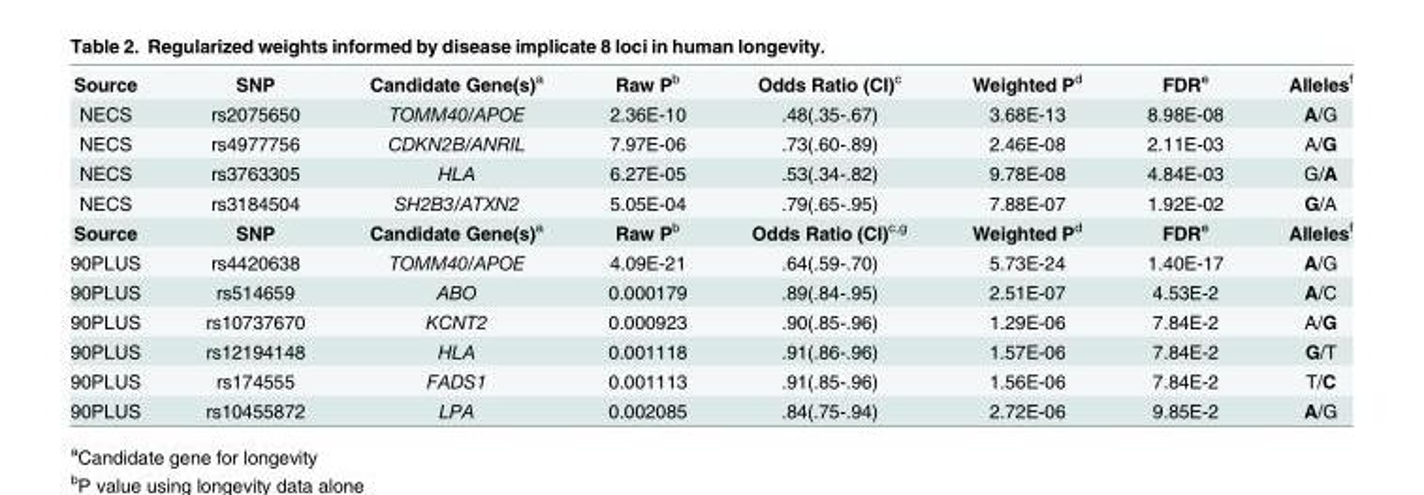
<table><tbody><tr><td>Source</td><td>SNP</td><td>Candidate Gene(s)<sup>a</sup></td><td>Raw P<sup>b</sup></td><td>Odds Ratio (CI)<sup>c</sup></td><td>Weighted P<sup>d</sup></td><td>FDR<sup>e</sup></td><td>Alleles<sup>f</sup></td></tr><tr><td>NECS</td><td>rs2075650</td><td>TOMM40/APOE</td><td>2.36E-10</td><td>.48(.35-.67)</td><td>3.68E-13</td><td>8.98E-08</td><td>A/G</td></tr><tr><td>NECS</td><td>rs4977756</td><td>CDKN2B/ANRIL</td><td>7.97E-06</td><td>.73(.60-.89)</td><td>2.46E-08</td><td>2.11E-03</td><td>A/G</td></tr><tr><td>NECS</td><td>rs3763305</td><td>HLA</td><td>6.27E-05</td><td>.53(.34-.82)</td><td>9.78E-08</td><td>4.84E-03</td><td>G/A</td></tr><tr><td>NECS</td><td>rs3184504</td><td>SH2B3/ATXN2</td><td>5.05E-04</td><td>.79(.65-.95)</td><td>7.88E-07</td><td>1.92E-02</td><td>G/A</td></tr><tr><td>Source</td><td>SNP</td><td>Candidate Gene(s)<sup>a</sup></td><td>Raw P<sup>b</sup></td><td>Odds Ratio (CI)<sup>c,g</sup></td><td>Weighted P<sup>d</sup></td><td>FDR<sup>e</sup></td><td>Alleles<sup>f</sup></td></tr><tr><td>90PLUS</td><td>rs4420638</td><td>TOMM40/APOE</td><td>4.09E-21</td><td>.64(.59-.70)</td><td>5.73E-24</td><td>1.40E-17</td><td>A/G</td></tr><tr><td>90PLUS</td><td>rs514659</td><td>ABO</td><td>0.000179</td><td>.89(.84-.95)</td><td>2.51E-07</td><td>4.53E-2</td><td>A/C</td></tr><tr><td>90PLUS</td><td>rs10737670</td><td>KCNT2</td><td>0.000923</td><td>.90(.85-.96)</td><td>1.29E-06</td><td>7.84E-2</td><td>A/G</td></tr><tr><td>90PLUS</td><td>rs12194148</td><td>HLA</td><td>0.001118</td><td>.91(.86-.96)</td><td>1.57E-06</td><td>7.84E-2</td><td>G/T</td></tr><tr><td>90PLUS</td><td>rs174555</td><td>FADS1</td><td>0.001113</td><td>.91(.85-.96)</td><td>1.56E-06</td><td>7.84E-2</td><td>T/C</td></tr><tr><td>90PLUS</td><td>rs10455872</td><td>LPA</td><td>0.002085</td><td>.84(.75-.94)</td><td>2.72E-06</td><td>9.85E-2</td><td>A/G</td></tr></tbody></table>